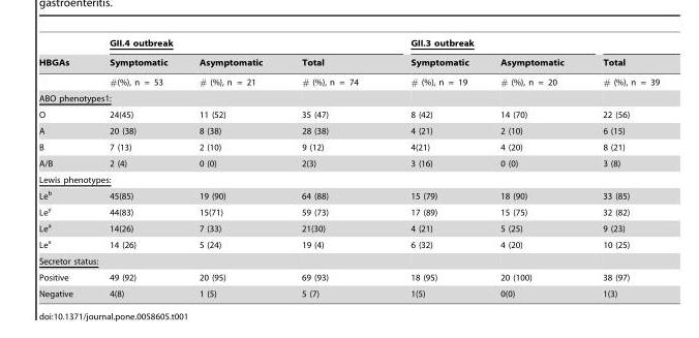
<table><thead><tr><td rowspan="2">HBGAs</td><td colspan="3">GII.4 outbreak</td><td colspan="2">GII.3 outbreak</td><td rowspan="2">Total</td></tr><tr><td>Symptomatic</td><td>Asymptomatic</td><td>Total</td><td>Symptomatic</td><td>Asymptomatic</td></tr></thead><tbody><tr><td></td><td>#(%), n = 53</td><td># (%), n = 21</td><td># (%), n = 74</td><td># (%), n = 19</td><td># (%), n = 20</td><td># (%), n = 39</td></tr><tr><td colspan="7">ABO phenotypes1:</td></tr><tr><td>O</td><td>24(45)</td><td>11 (52)</td><td>35 (47)</td><td>8 (42)</td><td>14 (70)</td><td>22 (56)</td></tr><tr><td>A</td><td>20 (38)</td><td>8 (38)</td><td>28 (38)</td><td>4 (21)</td><td>2 (10)</td><td>6 (15)</td></tr><tr><td>B</td><td>7 (13)</td><td>2 (10)</td><td>9 (12)</td><td>4(21)</td><td>4 (20)</td><td>8 (21)</td></tr><tr><td>A/B</td><td>2 (4)</td><td>0 (0)</td><td>2(3)</td><td>3 (16)</td><td>0 (0)</td><td>3 (8)</td></tr><tr><td colspan="7">Lewis phenotypes:</td></tr><tr><td>Le<sup>b</sup></td><td>45(85)</td><td>19 (90)</td><td>64 (88)</td><td>15 (79)</td><td>18 (90)</td><td>33 (85)</td></tr><tr><td>Le<sup>y</sup></td><td>44(83)</td><td>15(71)</td><td>59 (73)</td><td>17 (89)</td><td>15 (75)</td><td>32 (82)</td></tr><tr><td>Le<sup>a</sup></td><td>14(26)</td><td>7 (33)</td><td>21(30)</td><td>4 (21)</td><td>5 (25)</td><td>9 (23)</td></tr><tr><td>Le<sup>x</sup></td><td>14 (26)</td><td>5 (24)</td><td>19 (4)</td><td>6 (32)</td><td>4 (20)</td><td>10 (25)</td></tr><tr><td colspan="7">Secretor status:</td></tr><tr><td>Positive</td><td>49 (92)</td><td>20 (95)</td><td>69 (93)</td><td>18 (95)</td><td>20 (100)</td><td>38 (97)</td></tr><tr><td>Negative</td><td>4(8)</td><td>1 (5)</td><td>5 (7)</td><td>1(5)</td><td>0(0)</td><td>1(3)</td></tr></tbody></table>